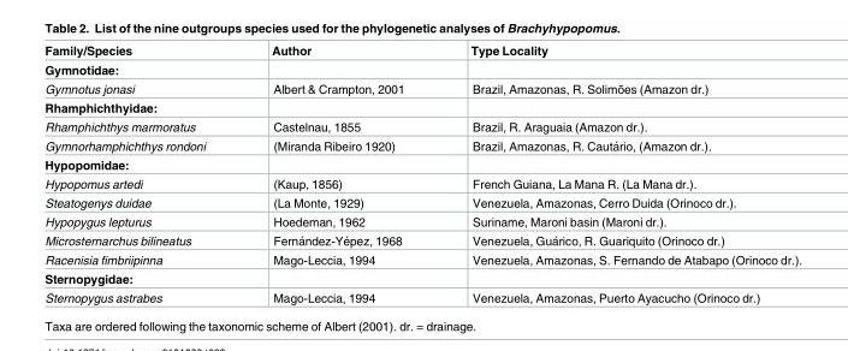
<table><thead><tr><td>Family/Species</td><td>Author</td><td>Type Locality</td></tr></thead><tbody><tr><td colspan="3">Gymnotidae:</td></tr><tr><td>Gymnotus jonasi</td><td>Albert &amp; Crampton, 2001</td><td>Brazil, Amazonas, R. Solimões (Amazon dr.)</td></tr><tr><td colspan="3">Rhamphichthyidae:</td></tr><tr><td>Rhamphichthys marmoratus</td><td>Castelnau, 1855</td><td>Brazil, R. Araguaia (Amazon dr.).</td></tr><tr><td>Gymnorhamphichthys rondoni</td><td>(Miranda Ribeiro 1920)</td><td>Brazil, Amazonas, R. Cauta´rio, (Amazon dr.).</td></tr><tr><td colspan="3">Hypopomidae:</td></tr><tr><td>Hypopomus artedi</td><td>(Kaup, 1856)</td><td>French Guiana, La Mana R. (La Mana dr.).</td></tr><tr><td>Steatogenys duidae</td><td>(La Monte, 1929)</td><td>Venezuela, Amazonas, Cerro Duida (Orinoco dr.).</td></tr><tr><td>Hypopygus lepturus</td><td>Hoedeman, 1962</td><td>Suriname, Maroni basin (Maroni dr.).</td></tr><tr><td>Microsternarchus bilineatus</td><td>Ferna´ndez-Ye´pez, 1968</td><td>Venezuela, Gua´rico, R. Guariquito (Orinoco dr.)</td></tr><tr><td>Racenisia fimbriipinna</td><td>Mago-Leccia, 1994</td><td>Venezuela, Amazonas, S. Fernando de Atabapo (Orinoco dr.).</td></tr><tr><td colspan="3">Sternopygidae:</td></tr><tr><td>Sternopygus astrabes</td><td>Mago-Leccia, 1994</td><td>Venezuela, Amazonas, Puerto Ayacucho (Orinoco dr.)</td></tr></tbody></table>